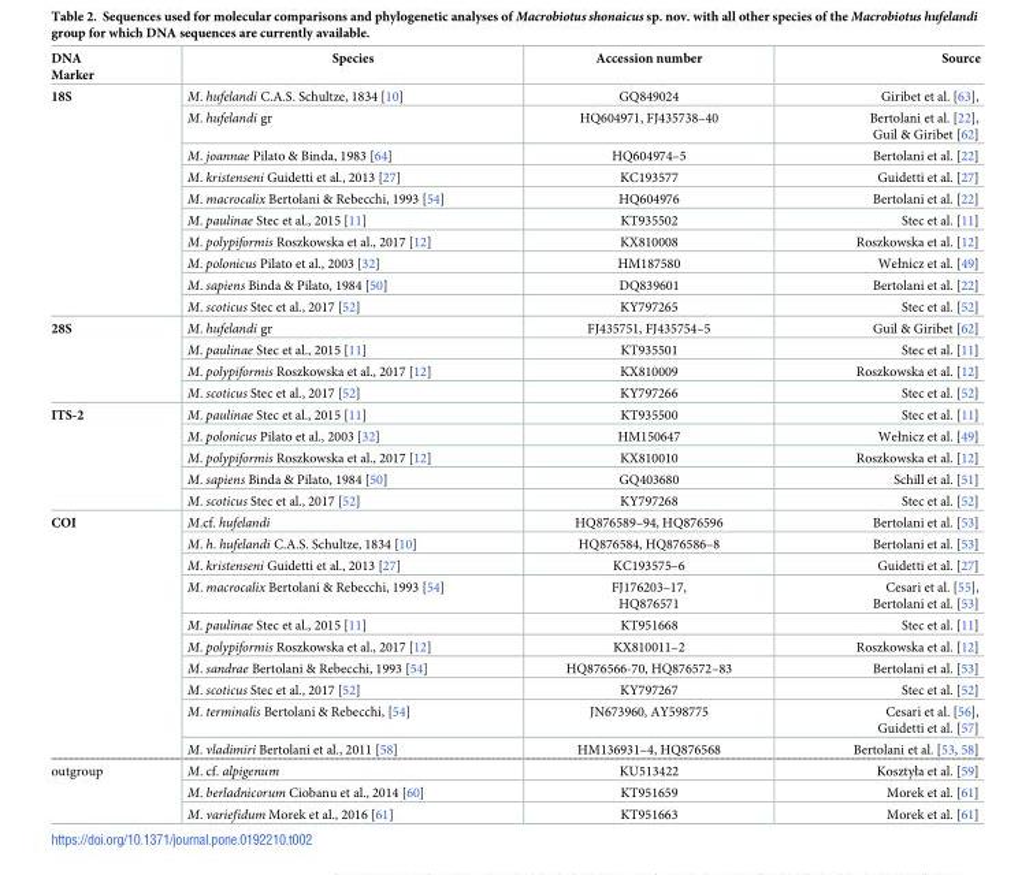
<table><thead><tr><td>DNA Marker</td><td>Species</td><td>Accession number</td><td>Source</td></tr></thead><tbody><tr><td rowspan="10">18S</td><td>M. hufelandi C.A.S. Schultze, 1834 [10]</td><td>GQ849024</td><td>Giribet et al. [63],</td></tr><tr><td>M. hufelandi gr</td><td>HQ604971, FJ435738–40</td><td>Bertolani et al. [22], Guil &amp; Giribet [62]</td></tr><tr><td>M. joannae Pilato &amp; Binda, 1983 [64]</td><td>HQ604974–5</td><td>Bertolani et al. [22]</td></tr><tr><td>M. kristenseni Guidetti et al., 2013 [27]</td><td>KC193577</td><td>Guidetti et al. [27]</td></tr><tr><td>M. macrocalix Bertolani &amp; Rebecchi, 1993 [54]</td><td>HQ604976</td><td>Bertolani et al. [22]</td></tr><tr><td>M. paulinae Stec et al., 2015 [11]</td><td>KT935502</td><td>Stec et al. [11]</td></tr><tr><td>M. polypiformis Roszkowska et al., 2017 [12]</td><td>KX810008</td><td>Roszkowska et al. [12]</td></tr><tr><td>M. polonicus Pilato et al., 2003 [32]</td><td>HM187580</td><td>Wełnicz et al. [49]</td></tr><tr><td>M. sapiens Binda &amp; Pilato, 1984 [50]</td><td>DQ839601</td><td>Bertolani et al. [22]</td></tr><tr><td>M. scoticus Stec et al., 2017 [52]</td><td>KY797265</td><td>Stec et al. [52]</td></tr><tr><td rowspan="4">28S</td><td>M. hufelandi gr</td><td>FJ435751, FJ435754–5</td><td>Guil &amp; Giribet [62]</td></tr><tr><td>M. paulinae Stec et al., 2015 [11]</td><td>KT935501</td><td>Stec et al. [11]</td></tr><tr><td>M. polypiformis Roszkowska et al., 2017 [12]</td><td>KX810009</td><td>Roszkowska et al. [12]</td></tr><tr><td>M. scoticus Stec et al., 2017 [52]</td><td>KY797266</td><td>Stec et al. [52]</td></tr><tr><td rowspan="5">ITS-2</td><td>M. paulinae Stec et al., 2015 [11]</td><td>KT935500</td><td>Stec et al. [11]</td></tr><tr><td>M. polonicus Pilato et al., 2003 [32]</td><td>HM150647</td><td>Wełnicz et al. [49]</td></tr><tr><td>M. polypiformis Roszkowska et al., 2017 [12]</td><td>KX810010</td><td>Roszkowska et al. [12]</td></tr><tr><td>M. sapiens Binda &amp; Pilato, 1984 [50]</td><td>GQ403680</td><td>Schill et al. [51]</td></tr><tr><td>M. scoticus Stec et al., 2017 [52]</td><td>KY797268</td><td>Stec et al. [52]</td></tr><tr><td rowspan="10">COI</td><td>M.cf. hufelandi</td><td>HQ876589–94, HQ876596</td><td>Bertolani et al. [53]</td></tr><tr><td>M. h. hufelandi C.A.S. Schultze, 1834 [10]</td><td>HQ876584, HQ876586–8</td><td>Bertolani et al. [53]</td></tr><tr><td>M. kristenseni Guidetti et al., 2013 [27]</td><td>KC193575–6</td><td>Guidetti et al. [27]</td></tr><tr><td>M. macrocalix Bertolani &amp; Rebecchi, 1993 [54]</td><td>FJ176203–17, HQ876571</td><td>Cesari et al. [55], Bertolani et al. [53]</td></tr><tr><td>M. paulinae Stec et al., 2015 [11]</td><td>KT951668</td><td>Stec et al. [11]</td></tr><tr><td>M. polypiformis Roszkowska et al., 2017 [12]</td><td>KX810011–2</td><td>Roszkowska et al. [12]</td></tr><tr><td>M. sandrae Bertolani &amp; Rebecchi, 1993 [54]</td><td>HQ876566-70, HQ876572–83</td><td>Bertolani et al. [53]</td></tr><tr><td>M. scoticus Stec et al., 2017 [52]</td><td>KY797267</td><td>Stec et al. [52]</td></tr><tr><td>M. terminalis Bertolani &amp; Rebecchi, [54]</td><td>JN673960, AY598775</td><td>Cesari et al. [56], Guidetti et al. [57]</td></tr><tr><td>M. vladimiri Bertolani et al., 2011 [58]</td><td>HM136931–4, HQ876568</td><td>Bertolani et al. [53, 58]</td></tr><tr><td rowspan="3">outgroup</td><td>M. cf. alpigenum</td><td>KU513422</td><td>Kosztyła et al. [59]</td></tr><tr><td>M. berladnicorum Ciobanu et al., 2014 [60]</td><td>KT951659</td><td>Morek et al. [61]</td></tr><tr><td>M. variefidum Morek et al., 2016 [61]</td><td>KT951663</td><td>Morek et al. [61]</td></tr></tbody></table>